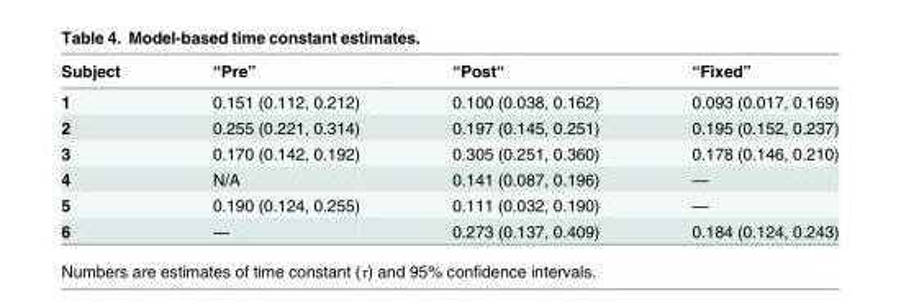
<table><thead><tr><td>Subject</td><td>“Pre”</td><td>“Post“</td><td>“Fixed”</td></tr></thead><tbody><tr><td>1</td><td>0.151 (0.112, 0.212)</td><td>0.100 (0.038, 0.162)</td><td>0.093 (0.017, 0.169)</td></tr><tr><td>2</td><td>0.255 (0.221, 0.314)</td><td>0.197 (0.145, 0.251)</td><td>0.195 (0.152, 0.237)</td></tr><tr><td>3</td><td>0.170 (0.142, 0.192)</td><td>0.305 (0.251, 0.360)</td><td>0.178 (0.146, 0.210)</td></tr><tr><td>4</td><td>N/A</td><td>0.141 (0.087, 0.196)</td><td>—</td></tr><tr><td>5</td><td>0.190 (0.124, 0.255)</td><td>0.111 (0.032, 0.190)</td><td>—</td></tr><tr><td>6</td><td>—</td><td>0.273 (0.137, 0.409)</td><td>0.184 (0.124, 0.243)</td></tr></tbody></table>